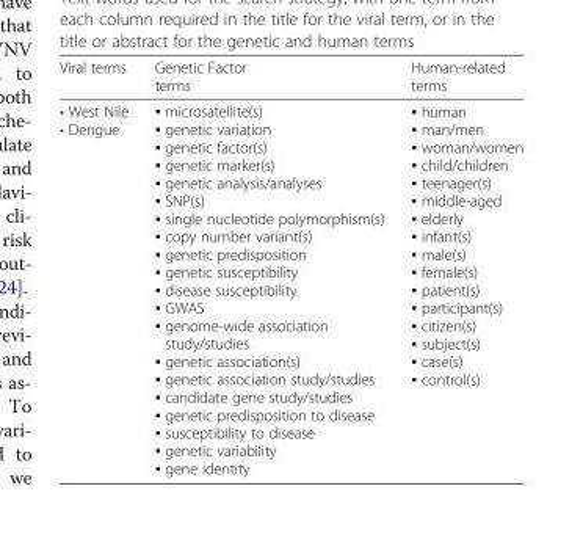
<table><thead><tr><td>Viral terms</td><td>Genetic Factor terms</td><td>Human-related terms</td></tr></thead><tbody><tr><td>• West Nile • Dengue</td><td>▪ microsatellite(s) ▪ genetic variation ▪ genetic factor(s) ▪ genetic marker(s) ▪ genetic analysis/analyses ▪ SNP(s) ▪ single nucleotide polymorphism(s) ▪ copy number variant(s) ▪ genetic predisposition ▪ genetic susceptibility ▪ disease susceptibility ▪ GWAS ▪ genome-wide association study/studies ▪ genetic association(s) ▪ genetic association study/studies ▪ candidate gene study/studies ▪ genetic predisposition to disease ▪ susceptibility to disease ▪ genetic variability ▪ gene identity</td><td>▪ human ▪ man/men ▪ woman/women ▪ child/children ▪ teenager(s) ▪ middle-aged ▪ elderly ▪ infant(s) ▪ male(s) ▪ female(s) ▪ patient(s) ▪ participant(s) ▪ citizen(s) ▪ subject(s) ▪ case(s) ▪ control(s)</td></tr></tbody></table>